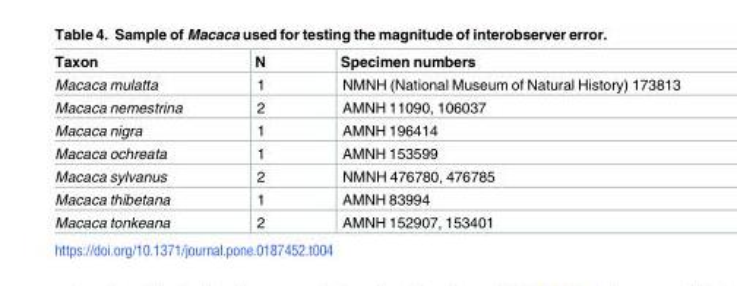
<table><thead><tr><td>Taxon</td><td>N</td><td>Specimen numbers</td></tr></thead><tbody><tr><td>Macaca mulatta</td><td>1</td><td>NMNH (National Museum of Natural History) 173813</td></tr><tr><td>Macaca nemestrina</td><td>2</td><td>AMNH 11090, 106037</td></tr><tr><td>Macaca nigra</td><td>1</td><td>AMNH 196414</td></tr><tr><td>Macaca ochreata</td><td>1</td><td>AMNH 153599</td></tr><tr><td>Macaca sylvanus</td><td>2</td><td>NMNH 476780, 476785</td></tr><tr><td>Macaca thibetana</td><td>1</td><td>AMNH 83994</td></tr><tr><td>Macaca tonkeana</td><td>2</td><td>AMNH 152907, 153401</td></tr></tbody></table>